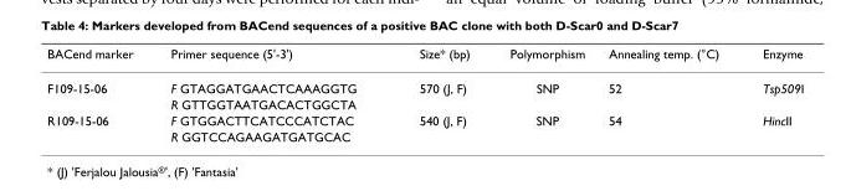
<table><thead><tr><td>BACend marker</td><td>Primer sequence (5&#x27;-3&#x27;)</td><td>Size* (bp)</td><td>Polymorphism</td><td>Annealing temp. (°C)</td><td>Enzyme</td></tr></thead><tbody><tr><td rowspan="2">F109-15-06</td><td>F GTAGGATGAACTCAAAGGTG</td><td>570 (J, F)</td><td>SNP</td><td>52</td><td>Tsp509I</td></tr><tr><td>R GTTGGTAATGACACTGGCTA</td><td></td><td></td><td></td><td></td></tr><tr><td rowspan="2">R109-15-06</td><td>F GTGGACTTCATCCCATCTAC</td><td>540 (J, F)</td><td>SNP</td><td>54</td><td>HincII</td></tr><tr><td>R GGTCCAGAAGATGATGCAC</td><td></td><td></td><td></td><td></td></tr></tbody></table>